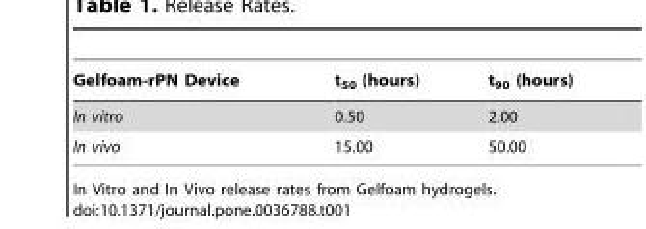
<table><thead><tr><td>Gelfoam-rPN Device</td><td>t<sub>50</sub> (hours)</td><td>t<sub>90</sub> (hours)</td></tr></thead><tbody><tr><td>In vitro</td><td>0.50</td><td>2.00</td></tr><tr><td>In vivo</td><td>15.00</td><td>50.00</td></tr></tbody></table>